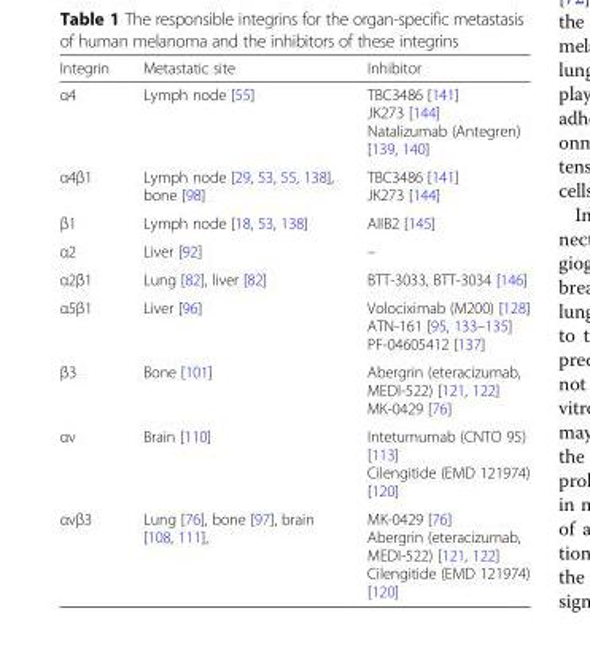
<table><thead><tr><td>Integrin</td><td>Metastatic site</td><td>Inhibitor</td></tr></thead><tbody><tr><td>α4</td><td>Lymph node [55]</td><td>TBC3486 [141] JK273 [144] Natalizumab (Antegren) [139, 140]</td></tr><tr><td>α4β1</td><td>Lymph node [29, 53, 55, 138], bone [98]</td><td>TBC3486 [141] JK273 [144]</td></tr><tr><td>β1</td><td>Lymph node [18, 53, 138]</td><td>AIIB2 [145]</td></tr><tr><td>α2</td><td>Liver [92]</td><td>–</td></tr><tr><td>α2β1</td><td>Lung [82], liver [82]</td><td>BTT-3033, BTT-3034 [146]</td></tr><tr><td>α5β1</td><td>Liver [96]</td><td>Volociximab (M200) [128] ATN-161 [95, 133–135] PF-04605412 [137]</td></tr><tr><td>β3</td><td>Bone [101]</td><td>Abergrin (eteracizumab, MEDI-522) [121, 122] MK-0429 [76]</td></tr><tr><td>αv</td><td>Brain [110]</td><td>Intetumumab (CNTO 95) [113] Cilengitide (EMD 121974) [120]</td></tr><tr><td>αvβ3</td><td>Lung [76], bone [97], brain [108, 111],</td><td>MK-0429 [76] Abergrin (eteracizumab, MEDI-522) [121, 122] Cilengitide (EMD 121974) [120]</td></tr></tbody></table>